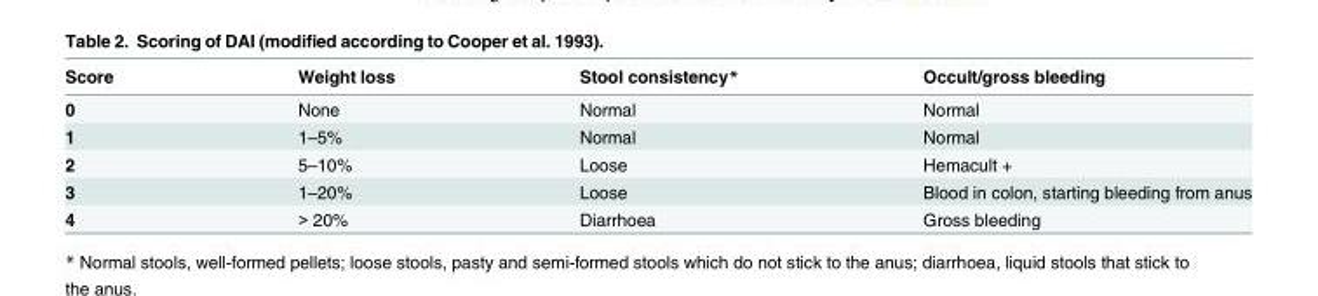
<table><thead><tr><td>Score</td><td>Weight loss</td><td>Stool consistency*</td><td>Occult/gross bleeding</td></tr></thead><tbody><tr><td>0</td><td>None</td><td>Normal</td><td>Normal</td></tr><tr><td>1</td><td>1–5%</td><td>Normal</td><td>Normal</td></tr><tr><td>2</td><td>5–10%</td><td>Loose</td><td>Hemacult +</td></tr><tr><td>3</td><td>1–20%</td><td>Loose</td><td>Blood in colon, starting bleeding from anus</td></tr><tr><td>4</td><td>&gt; 20%</td><td>Diarrhoea</td><td>Gross bleeding</td></tr></tbody></table>